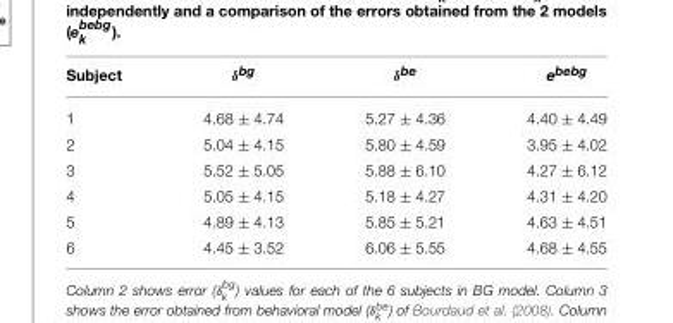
<table><thead><tr><td>Subject</td><td>δ<sup>bg</sup></td><td>δ<sup>be</sup></td><td>e<sup>bebg</sup></td></tr></thead><tbody><tr><td>1</td><td>4.68 ± 4.74</td><td>5.27 ± 4.36</td><td>4.40 ± 4.49</td></tr><tr><td>2</td><td>5.04 ± 4.15</td><td>5.80 ± 4.59</td><td>3.95 ± 4.02</td></tr><tr><td>3</td><td>5.52 ± 5.05</td><td>5.88 ± 6.10</td><td>4.27 ± 6.12</td></tr><tr><td>4</td><td>5.05 ± 4.15</td><td>5.18 ± 4.27</td><td>4.31 ± 4.20</td></tr><tr><td>5</td><td>4.89 ± 4.13</td><td>5.85 ± 5.21</td><td>4.63 ± 4.51</td></tr><tr><td>6</td><td>4.45 ± 3.52</td><td>6.06 ± 5.55</td><td>4.68 ± 4.55</td></tr></tbody></table>